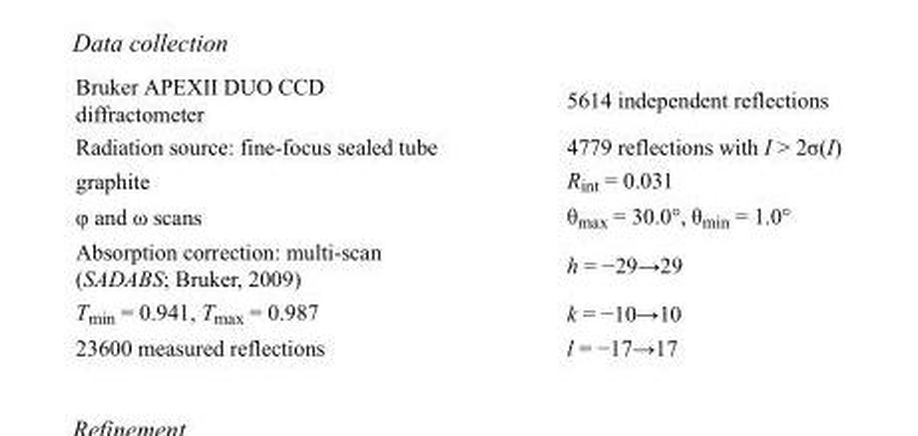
<table><tbody><tr><td>Bruker APEXII DUO CCD diffractometer</td><td>5614 independent reflections</td></tr><tr><td>Radiation source: fine-focus sealed tube</td><td>4779 reflections with I &gt; 2σ(I)</td></tr><tr><td>graphite</td><td>R<sub>int</sub> = 0.031</td></tr><tr><td>φ and ω scans</td><td>θ<sub>max</sub> = 30.0°, θ<sub>min</sub> = 1.0°</td></tr><tr><td>Absorption correction: multi-scan (SADABS; Bruker, 2009)</td><td>h = −29→29</td></tr><tr><td>T<sub>min</sub> = 0.941, T<sub>max</sub> = 0.987</td><td>k = −10→10</td></tr><tr><td>23600 measured reflections</td><td>l = −17→17</td></tr></tbody></table>